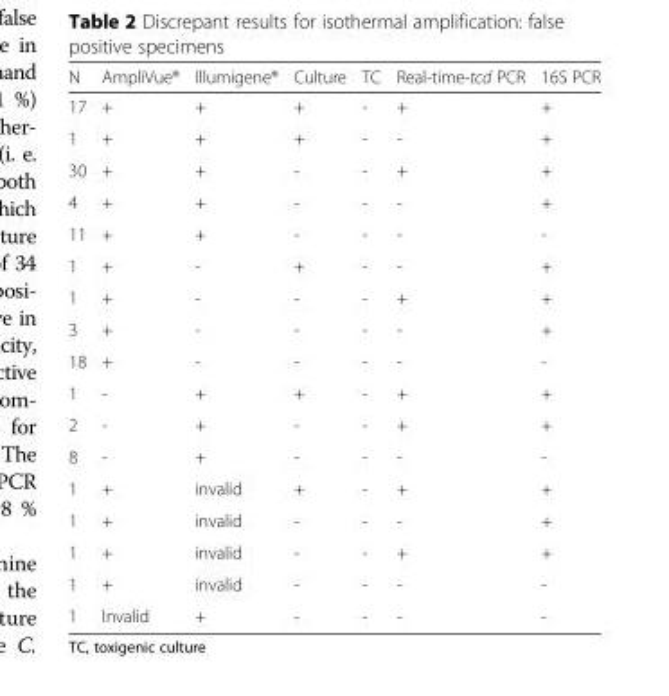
<table><thead><tr><td>N</td><td>AmpliVue®</td><td>Illumigene®</td><td>Culture</td><td>TC</td><td>Real-time-tcd PCR</td><td>16S PCR</td></tr></thead><tbody><tr><td>17</td><td>+</td><td>+</td><td>+</td><td>-</td><td>+</td><td>+</td></tr><tr><td>1</td><td>+</td><td>+</td><td>+</td><td>-</td><td>-</td><td>+</td></tr><tr><td>30</td><td>+</td><td>+</td><td>-</td><td>-</td><td>+</td><td>+</td></tr><tr><td>4</td><td>+</td><td>+</td><td>-</td><td>-</td><td>-</td><td>+</td></tr><tr><td>11</td><td>+</td><td>+</td><td>-</td><td>-</td><td>-</td><td>-</td></tr><tr><td>1</td><td>+</td><td>-</td><td>+</td><td>-</td><td>-</td><td>+</td></tr><tr><td>1</td><td>+</td><td>-</td><td>-</td><td>-</td><td>+</td><td>+</td></tr><tr><td>3</td><td>+</td><td>-</td><td>-</td><td>-</td><td>-</td><td>+</td></tr><tr><td>18</td><td>+</td><td>-</td><td>-</td><td>-</td><td>-</td><td>-</td></tr><tr><td>1</td><td>-</td><td>+</td><td>+</td><td>-</td><td>+</td><td>+</td></tr><tr><td>2</td><td>-</td><td>+</td><td>-</td><td>-</td><td>+</td><td>+</td></tr><tr><td>8</td><td>-</td><td>+</td><td>-</td><td>-</td><td>-</td><td>-</td></tr><tr><td>1</td><td>+</td><td>invalid</td><td>+</td><td>-</td><td>+</td><td>+</td></tr><tr><td>1</td><td>+</td><td>invalid</td><td>-</td><td>-</td><td>-</td><td>+</td></tr><tr><td>1</td><td>+</td><td>invalid</td><td>-</td><td>-</td><td>+</td><td>+</td></tr><tr><td>1</td><td>+</td><td>invalid</td><td>-</td><td>-</td><td>-</td><td>-</td></tr><tr><td>1</td><td>Invalid</td><td>+</td><td>-</td><td>-</td><td>-</td><td>-</td></tr></tbody></table>